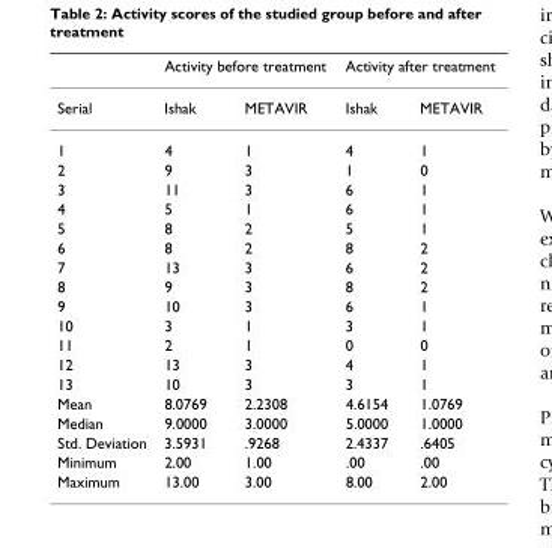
<table><thead><tr><td rowspan="2">Serial</td><td colspan="2">Activity before treatment</td><td colspan="2">Activity after treatment</td></tr><tr><td>Ishak</td><td>METAVIR</td><td>Ishak</td><td>METAVIR</td></tr></thead><tbody><tr><td>1</td><td>4</td><td>1</td><td>4</td><td>1</td></tr><tr><td>2</td><td>9</td><td>3</td><td>1</td><td>0</td></tr><tr><td>3</td><td>11</td><td>3</td><td>6</td><td>1</td></tr><tr><td>4</td><td>5</td><td>1</td><td>6</td><td>1</td></tr><tr><td>5</td><td>8</td><td>2</td><td>5</td><td>1</td></tr><tr><td>6</td><td>8</td><td>2</td><td>8</td><td>2</td></tr><tr><td>7</td><td>13</td><td>3</td><td>6</td><td>2</td></tr><tr><td>8</td><td>9</td><td>3</td><td>8</td><td>2</td></tr><tr><td>9</td><td>10</td><td>3</td><td>6</td><td>1</td></tr><tr><td>10</td><td>3</td><td>1</td><td>3</td><td>1</td></tr><tr><td>11</td><td>2</td><td>1</td><td>0</td><td>0</td></tr><tr><td>12</td><td>13</td><td>3</td><td>4</td><td>1</td></tr><tr><td>13</td><td>10</td><td>3</td><td>3</td><td>1</td></tr><tr><td>Mean</td><td>8.0769</td><td>2.2308</td><td>4.6154</td><td>1.0769</td></tr><tr><td>Median</td><td>9.0000</td><td>3.0000</td><td>5.0000</td><td>1.0000</td></tr><tr><td>Std. Deviation</td><td>3.5931</td><td>.9268</td><td>2.4337</td><td>.6405</td></tr><tr><td>Minimum</td><td>2.00</td><td>1.00</td><td>.00</td><td>.00</td></tr><tr><td>Maximum</td><td>13.00</td><td>3.00</td><td>8.00</td><td>2.00</td></tr></tbody></table>